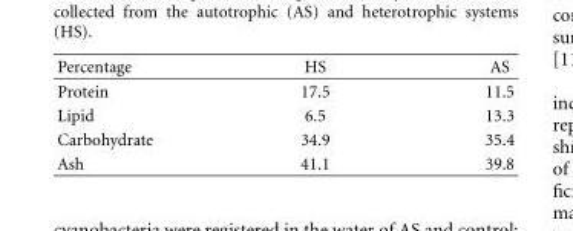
<table><thead><tr><td>Percentage</td><td>HS</td><td>AS</td></tr></thead><tbody><tr><td>Protein</td><td>17.5</td><td>11.5</td></tr><tr><td>Lipid</td><td>6.5</td><td>13.3</td></tr><tr><td>Carbohydrate</td><td>34.9</td><td>35.4</td></tr><tr><td>Ash</td><td>41.1</td><td>39.8</td></tr></tbody></table>